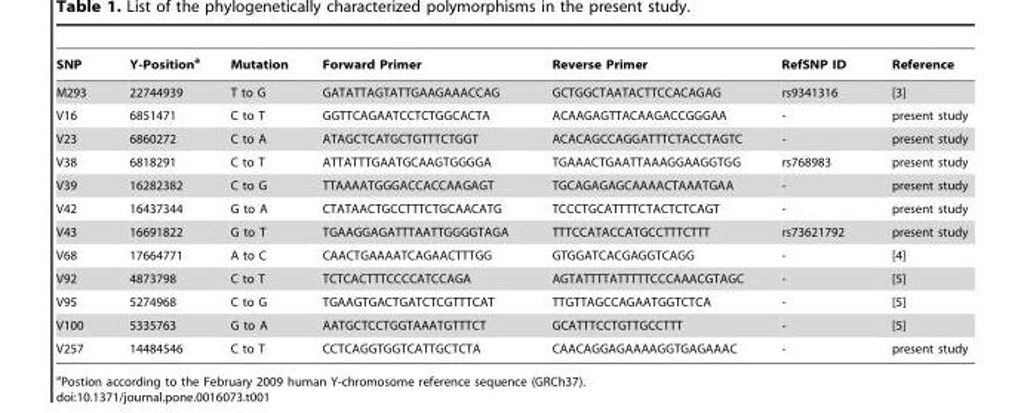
<table><thead><tr><td>SNP</td><td>Y-Position<sup>a</sup></td><td>Mutation</td><td>Forward Primer</td><td>Reverse Primer</td><td>RefSNP ID</td><td>Reference</td></tr></thead><tbody><tr><td>M293</td><td>22744939</td><td>T to G</td><td>GATATTAGTATTGAAGAAACCAG</td><td>GCTGGCTAATACTTCCACAGAG</td><td>rs9341316</td><td>[3]</td></tr><tr><td>V16</td><td>6851471</td><td>C to T</td><td>GGTTCAGAATCCTCTGGCACTA</td><td>ACAAGAGTTACAAGACCGGGAA</td><td>-</td><td>present study</td></tr><tr><td>V23</td><td>6860272</td><td>C to A</td><td>ATAGCTCATGCTGTTTCTGGT</td><td>ACACAGCCAGGATTTCTACCTAGTC</td><td>-</td><td>present study</td></tr><tr><td>V38</td><td>6818291</td><td>C to T</td><td>ATTATTTGAATGCAAGTGGGGA</td><td>TGAAACTGAATTAAAGGAAGGTGG</td><td>rs768983</td><td>present study</td></tr><tr><td>V39</td><td>16282382</td><td>C to G</td><td>TTAAAATGGGACCACCAAGAGT</td><td>TGCAGAGAGCAAAACTAAATGAA</td><td>-</td><td>present study</td></tr><tr><td>V42</td><td>16437344</td><td>G to A</td><td>CTATAACTGCCTTTCTGCAACATG</td><td>TCCCTGCATTTTCTACTCTCAGT</td><td>-</td><td>present study</td></tr><tr><td>V43</td><td>16691822</td><td>G to T</td><td>TGAAGGAGATTTAATTGGGGTAGA</td><td>TTTCCATACCATGCCTTTCTTT</td><td>rs73621792</td><td>present study</td></tr><tr><td>V68</td><td>17664771</td><td>A to C</td><td>CAACTGAAAATCAGAACTTTGG</td><td>GTGGATCACGAGGTCAGG</td><td>-</td><td>[4]</td></tr><tr><td>V92</td><td>4873798</td><td>C to T</td><td>TCTCACTTTCCCCATCCAGA</td><td>AGTATTTTATTTTTCCCAAACGTAGC</td><td>-</td><td>[5]</td></tr><tr><td>V95</td><td>5274968</td><td>C to G</td><td>TGAAGTGACTGATCTCGTTTCAT</td><td>TTGTTAGCCAGAATGGTCTCA</td><td>-</td><td>[5]</td></tr><tr><td>V100</td><td>5335763</td><td>G to A</td><td>AATGCTCCTGGTAAATGTTTCT</td><td>GCATTTCCTGTTGCCTTT</td><td>-</td><td>[5]</td></tr><tr><td>V257</td><td>14484546</td><td>C to T</td><td>CCTCAGGTGGTCATTGCTCTA</td><td>CAACAGGAGAAAAGGTGAGAAAC</td><td>-</td><td>present study</td></tr></tbody></table>